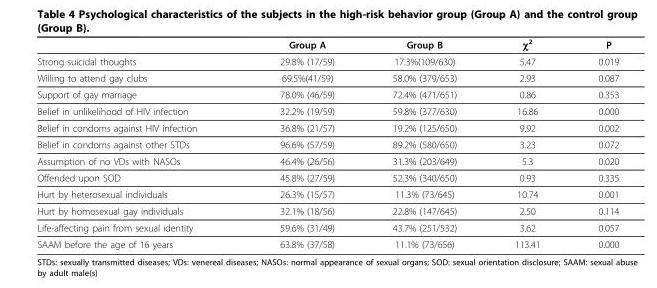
<table><thead><tr><td></td><td>Group A</td><td>Group B</td><td>χ<sup>2</sup></td><td>P</td></tr></thead><tbody><tr><td>Strong suicidal thoughts</td><td>29.8% (17/59)</td><td>17.3%(109/630)</td><td>5.47</td><td>0.019</td></tr><tr><td>Willing to attend gay clubs</td><td>69.5%(41/59)</td><td>58.0% (379/653)</td><td>2.93</td><td>0.087</td></tr><tr><td>Support of gay marriage</td><td>78.0% (46/59)</td><td>72.4% (471/651)</td><td>0.86</td><td>0.353</td></tr><tr><td>Belief in unlikelihood of HIV infection</td><td>32.2% (19/59)</td><td>59.8% (377/630)</td><td>16.86</td><td>0.000</td></tr><tr><td>Belief in condoms against HIV infection</td><td>36.8% (21/57)</td><td>19.2% (125/650)</td><td>9.92</td><td>0.002</td></tr><tr><td>Belief in condoms against other STDs</td><td>96.6% (57/59)</td><td>89.2% (580/650)</td><td>3.23</td><td>0.072</td></tr><tr><td>Assumption of no VDs with NASOs</td><td>46.4% (26/56)</td><td>31.3% (203/649)</td><td>5.3</td><td>0.020</td></tr><tr><td>Offended upon SOD</td><td>45.8% (27/59)</td><td>52.3% (340/650)</td><td>0.93</td><td>0.335</td></tr><tr><td>Hurt by heterosexual individuals</td><td>26.3% (15/57)</td><td>11.3% (73/645)</td><td>10.74</td><td>0.001</td></tr><tr><td>Hurt by homosexual gay individuals</td><td>32.1% (18/56)</td><td>22.8% (147/645)</td><td>2.50</td><td>0.114</td></tr><tr><td>Life-affecting pain from sexual identity</td><td>59.6% (31/49)</td><td>43.7% (251/532)</td><td>3.62</td><td>0.057</td></tr><tr><td>SAAM before the age of 16 years</td><td>63.8% (37/58)</td><td>11.1% (73/656)</td><td>113.41</td><td>0.000</td></tr></tbody></table>